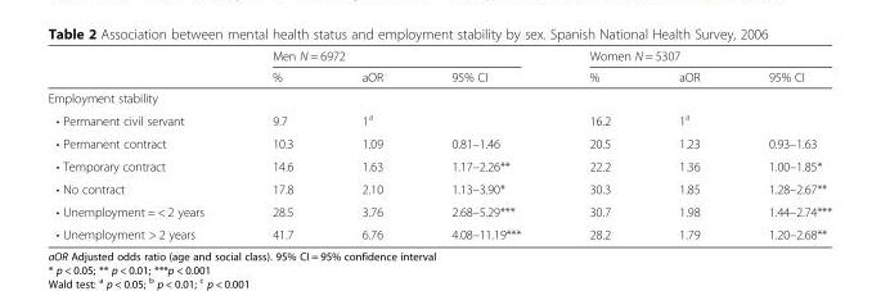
<table><thead><tr><td rowspan="2"></td><td colspan="3">Men N = 6972</td><td colspan="3">Women N = 5307</td></tr><tr><td>%</td><td>aOR</td><td>95% CI</td><td>%</td><td>aOR</td><td>95% CI</td></tr></thead><tbody><tr><td colspan="7">Employment stability</td></tr><tr><td>• Permanent civil servant</td><td>9.7</td><td>1<sup>a</sup></td><td></td><td>16.2</td><td>1<sup>a</sup></td><td></td></tr><tr><td>• Permanent contract</td><td>10.3</td><td>1.09</td><td>0.81–1.46</td><td>20.5</td><td>1.23</td><td>0.93–1.63</td></tr><tr><td>• Temporary contract</td><td>14.6</td><td>1.63</td><td>1.17–2.26**</td><td>22.2</td><td>1.36</td><td>1.00–1.85*</td></tr><tr><td>• No contract</td><td>17.8</td><td>2.10</td><td>1.13–3.90*</td><td>30.3</td><td>1.85</td><td>1.28–2.67**</td></tr><tr><td>• Unemployment = &lt; 2 years</td><td>28.5</td><td>3.76</td><td>2.68–5.29***</td><td>30.7</td><td>1.98</td><td>1.44–2.74***</td></tr><tr><td>• Unemployment &gt; 2 years</td><td>41.7</td><td>6.76</td><td>4.08–11.19***</td><td>28.2</td><td>1.79</td><td>1.20–2.68**</td></tr></tbody></table>